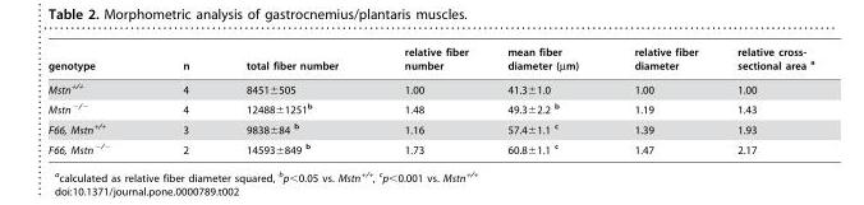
<table><thead><tr><td>genotype</td><td>n</td><td>total fiber number</td><td>relative fiber number</td><td>mean fiber diameter (µm)</td><td>relative fiber diameter</td><td>relative cross- sectional area a</td></tr></thead><tbody><tr><td>Mstn<sup>+/+</sup></td><td>4</td><td>8451±505</td><td>1.00</td><td>41.3±1.0</td><td>1.00</td><td>1.00</td></tr><tr><td>Mstn<sup>−/−</sup></td><td>4</td><td>12488±1251<sup>b</sup></td><td>1.48</td><td>49.3±2.2 b</td><td>1.19</td><td>1.43</td></tr><tr><td>F66, Mstn<sup>+/+</sup></td><td>3</td><td>9838±84 b</td><td>1.16</td><td>57.4±1.1 c</td><td>1.39</td><td>1.93</td></tr><tr><td>F66, Mstn<sup>−/−</sup></td><td>2</td><td>14593±849 b</td><td>1.73</td><td>60.8±1.1 c</td><td>1.47</td><td>2.17</td></tr></tbody></table>